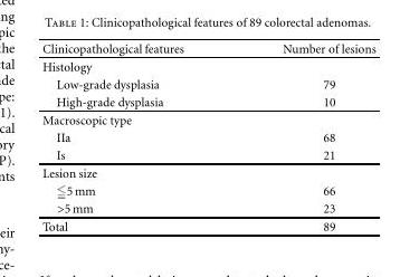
<table><thead><tr><td>Clinicopathological features</td><td>Number of lesions</td></tr></thead><tbody><tr><td colspan="2">Histology</td></tr><tr><td>Low-grade dysplasia</td><td>79</td></tr><tr><td>High-grade dysplasia</td><td>10</td></tr><tr><td colspan="2">Macroscopic type</td></tr><tr><td>IIa</td><td>68</td></tr><tr><td>Is</td><td>21</td></tr><tr><td colspan="2">Lesion size</td></tr><tr><td>≦5 mm</td><td>66</td></tr><tr><td>&gt;5 mm</td><td>23</td></tr><tr><td>Total</td><td>89</td></tr></tbody></table>